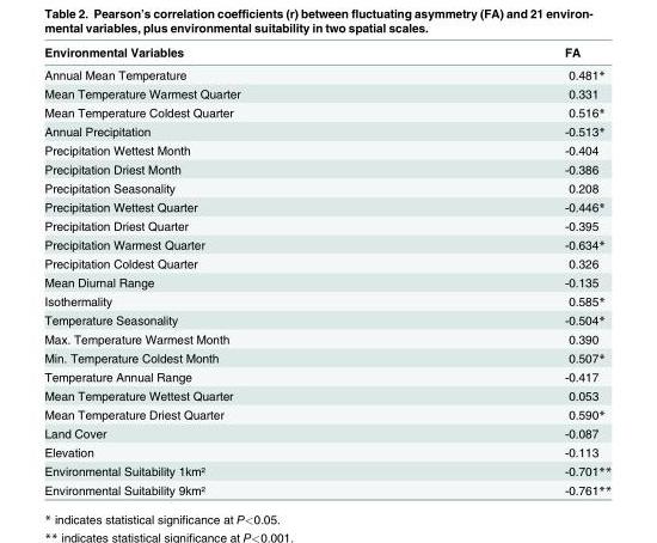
<table><thead><tr><td>Environmental Variables</td><td>FA</td></tr></thead><tbody><tr><td>Annual Mean Temperature</td><td>0.481*</td></tr><tr><td>Mean Temperature Warmest Quarter</td><td>0.331</td></tr><tr><td>Mean Temperature Coldest Quarter</td><td>0.516*</td></tr><tr><td>Annual Precipitation</td><td>-0.513*</td></tr><tr><td>Precipitation Wettest Month</td><td>-0.404</td></tr><tr><td>Precipitation Driest Month</td><td>-0.386</td></tr><tr><td>Precipitation Seasonality</td><td>0.208</td></tr><tr><td>Precipitation Wettest Quarter</td><td>-0.446*</td></tr><tr><td>Precipitation Driest Quarter</td><td>-0.395</td></tr><tr><td>Precipitation Warmest Quarter</td><td>-0.634*</td></tr><tr><td>Precipitation Coldest Quarter</td><td>0.326</td></tr><tr><td>Mean Diurnal Range</td><td>-0.135</td></tr><tr><td>Isothermality</td><td>0.585*</td></tr><tr><td>Temperature Seasonality</td><td>-0.504*</td></tr><tr><td>Max. Temperature Warmest Month</td><td>0.390</td></tr><tr><td>Min. Temperature Coldest Month</td><td>0.507*</td></tr><tr><td>Temperature Annual Range</td><td>-0.417</td></tr><tr><td>Mean Temperature Wettest Quarter</td><td>0.053</td></tr><tr><td>Mean Temperature Driest Quarter</td><td>0.590*</td></tr><tr><td>Land Cover</td><td>-0.087</td></tr><tr><td>Elevation</td><td>-0.113</td></tr><tr><td>Environmental Suitability 1km²</td><td>-0.701**</td></tr><tr><td>Environmental Suitability 9km²</td><td>-0.761**</td></tr></tbody></table>